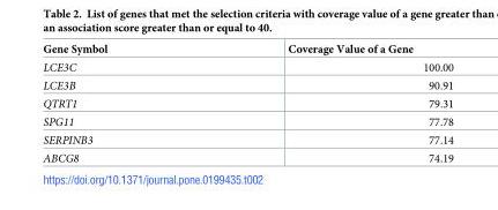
<table><thead><tr><td>Gene Symbol</td><td>Coverage Value of a Gene</td></tr></thead><tbody><tr><td>LCE3C</td><td>100.00</td></tr><tr><td>LCE3B</td><td>90.91</td></tr><tr><td>QTRT1</td><td>79.31</td></tr><tr><td>SPG11</td><td>77.78</td></tr><tr><td>SERPINB3</td><td>77.14</td></tr><tr><td>ABCG8</td><td>74.19</td></tr></tbody></table>